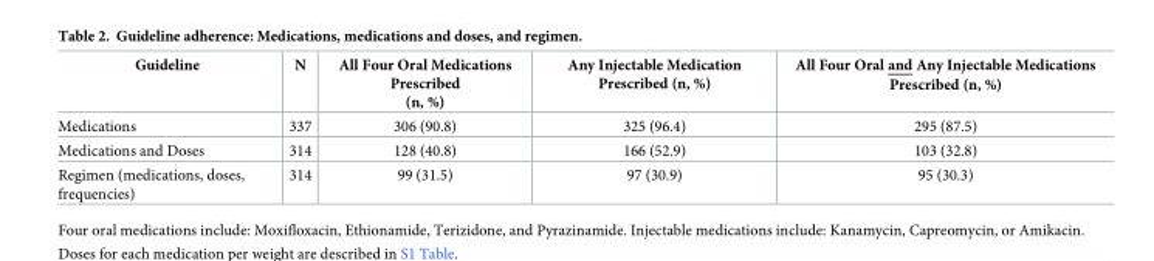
<table><thead><tr><td>Guideline</td><td>N</td><td>All Four Oral Medications Prescribed (n, %)</td><td>Any Injectable Medication Prescribed (n, %)</td><td>All Four Oral and Any Injectable Medications Prescribed (n, %)</td></tr></thead><tbody><tr><td>Medications</td><td>337</td><td>306 (90.8)</td><td>325 (96.4)</td><td>295 (87.5)</td></tr><tr><td>Medications and Doses</td><td>314</td><td>128 (40.8)</td><td>166 (52.9)</td><td>103 (32.8)</td></tr><tr><td>Regimen (medications, doses, frequencies)</td><td>314</td><td>99 (31.5)</td><td>97 (30.9)</td><td>95 (30.3)</td></tr></tbody></table>